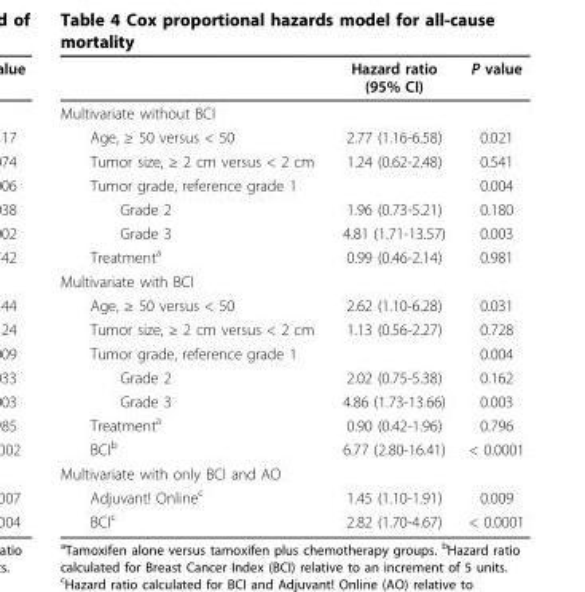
<table><thead><tr><td></td><td>Hazard ratio (95% CI)</td><td>P value</td></tr></thead><tbody><tr><td colspan="3">Multivariate without BCI</td></tr><tr><td>Age, ≥ 50 versus &lt; 50</td><td>2.77 (1.16-6.58)</td><td>0.021</td></tr><tr><td>Tumor size, ≥ 2 cm versus &lt; 2 cm</td><td>1.24 (0.62-2.48)</td><td>0.541</td></tr><tr><td>Tumor grade, reference grade 1</td><td></td><td>0.004</td></tr><tr><td>Grade 2</td><td>1.96 (0.73-5.21)</td><td>0.180</td></tr><tr><td>Grade 3</td><td>4.81 (1.71-13.57)</td><td>0.003</td></tr><tr><td>Treatment<sup>a</sup></td><td>0.99 (0.46-2.14)</td><td>0.981</td></tr><tr><td colspan="3">Multivariate with BCI</td></tr><tr><td>Age, ≥ 50 versus &lt; 50</td><td>2.62 (1.10-6.28)</td><td>0.031</td></tr><tr><td>Tumor size, ≥ 2 cm versus &lt; 2 cm</td><td>1.13 (0.56-2.27)</td><td>0.728</td></tr><tr><td>Tumor grade, reference grade 1</td><td></td><td>0.004</td></tr><tr><td>Grade 2</td><td>2.02 (0.75-5.38)</td><td>0.162</td></tr><tr><td>Grade 3</td><td>4.86 (1.73-13.66)</td><td>0.003</td></tr><tr><td>Treatment<sup>a</sup></td><td>0.90 (0.42-1.96)</td><td>0.796</td></tr><tr><td>BCI<sup>b</sup></td><td>6.77 (2.80-16.41)</td><td>&lt; 0.0001</td></tr><tr><td colspan="3">Multivariate with only BCI and AO</td></tr><tr><td>Adjuvant! Online<sup>c</sup></td><td>1.45 (1.10-1.91)</td><td>0.009</td></tr><tr><td>BCI<sup>c</sup></td><td>2.82 (1.70-4.67)</td><td>&lt; 0.0001</td></tr></tbody></table>